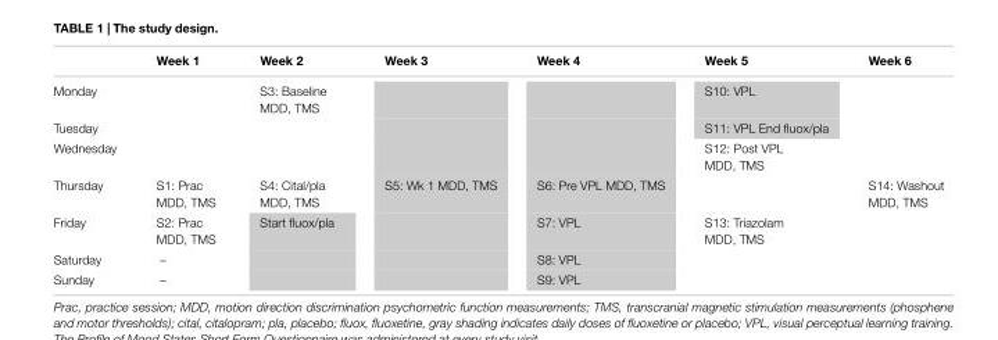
<table><thead><tr><td></td><td>Week 1</td><td>Week 2</td><td>Week 3</td><td>Week 4</td><td>Week 5</td><td>Week 6</td></tr></thead><tbody><tr><td>Monday</td><td></td><td>S3: Baseline MDD, TMS</td><td></td><td></td><td>S10: VPL</td><td></td></tr><tr><td>Tuesday</td><td></td><td></td><td></td><td></td><td>S11: VPL End fluox/pla</td><td></td></tr><tr><td>Wednesday</td><td></td><td></td><td></td><td></td><td>S12: Post VPL MDD, TMS</td><td></td></tr><tr><td>Thursday</td><td>S1: Prac MDD, TMS</td><td>S4: Cital/pla MDD, TMS</td><td>S5: Wk 1 MDD, TMS</td><td>S6: Pre VPL MDD, TMS</td><td></td><td>S14: Washout MDD, TMS</td></tr><tr><td>Friday</td><td>S2: Prac MDD, TMS</td><td>Start fluox/pla</td><td></td><td>S7: VPL</td><td>S13: Triazolam MDD, TMS</td><td></td></tr><tr><td>Saturday</td><td>–</td><td></td><td></td><td>S8: VPL</td><td></td><td></td></tr><tr><td>Sunday</td><td>–</td><td></td><td></td><td>S9: VPL</td><td></td><td></td></tr></tbody></table>